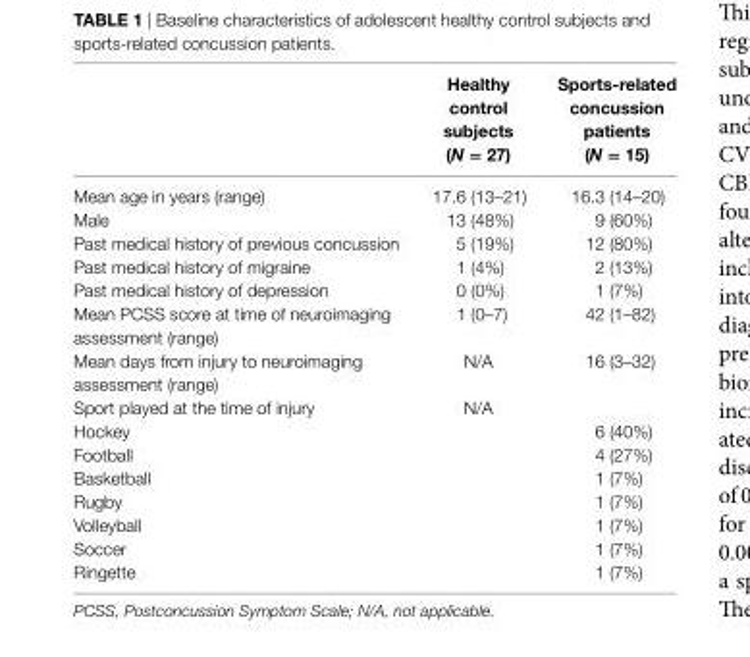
<table><thead><tr><td></td><td>healthy control subjects (N = 27)</td><td>sports-related concussion patients (N = 15)</td></tr></thead><tbody><tr><td>Mean age in years (range)</td><td>17.6 (13–21)</td><td>16.3 (14–20)</td></tr><tr><td>Male</td><td>13 (48%)</td><td>9 (60%)</td></tr><tr><td>Past medical history of previous concussion</td><td>5 (19%)</td><td>12 (80%)</td></tr><tr><td>Past medical history of migraine</td><td>1 (4%)</td><td>2 (13%)</td></tr><tr><td>Past medical history of depression</td><td>0 (0%)</td><td>1 (7%)</td></tr><tr><td>Mean PCSS score at time of neuroimaging assessment (range)</td><td>1 (0–7)</td><td>42 (1–82)</td></tr><tr><td>Mean days from injury to neuroimaging assessment (range)</td><td>N/A</td><td>16 (3–32)</td></tr><tr><td>Sport played at the time of injury</td><td>N/A</td><td></td></tr><tr><td>Hockey</td><td></td><td>6 (40%)</td></tr><tr><td>Football</td><td></td><td>4 (27%)</td></tr><tr><td>Basketball</td><td></td><td>1 (7%)</td></tr><tr><td>Rugby</td><td></td><td>1 (7%)</td></tr><tr><td>Volleyball</td><td></td><td>1 (7%)</td></tr><tr><td>Soccer</td><td></td><td>1 (7%)</td></tr><tr><td>Ringette</td><td></td><td>1 (7%)</td></tr></tbody></table>